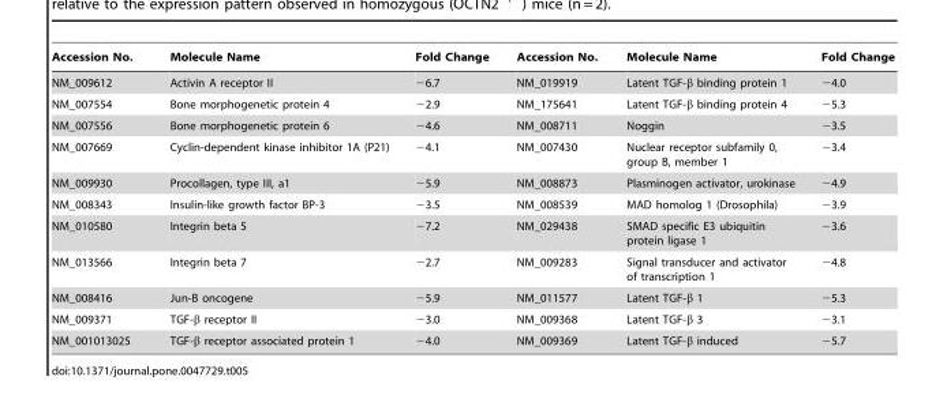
<table><thead><tr><td>Accession No.</td><td>Molecule Name</td><td>Fold Change</td><td>Accession No.</td><td>Molecule Name</td><td>Fold Change</td></tr></thead><tbody><tr><td>NM_009612</td><td>Activin A receptor II</td><td>−6.7</td><td>NM_019919</td><td>Latent TGF-b binding protein 1</td><td>−4.0</td></tr><tr><td>NM_007554</td><td>Bone morphogenetic protein 4</td><td>−2.9</td><td>NM_175641</td><td>Latent TGF-b binding protein 4</td><td>−5.3</td></tr><tr><td>NM_007556</td><td>Bone morphogenetic protein 6</td><td>−4.6</td><td>NM_008711</td><td>Noggin</td><td>−3.5</td></tr><tr><td>NM_007669</td><td>Cyclin-dependent kinase inhibitor 1A (P21)</td><td>−4.1</td><td>NM_007430</td><td>Nuclear receptor subfamily 0, group B, member 1</td><td>−3.4</td></tr><tr><td>NM_009930</td><td>Procollagen, type III, a1</td><td>−5.9</td><td>NM_008873</td><td>Plasminogen activator, urokinase</td><td>−4.9</td></tr><tr><td>NM_008343</td><td>Insulin-like growth factor BP-3</td><td>−3.5</td><td>NM_008539</td><td>MAD homolog 1 (Drosophila)</td><td>−3.9</td></tr><tr><td>NM_010580</td><td>Integrin beta 5</td><td>−7.2</td><td>NM_029438</td><td>SMAD specific E3 ubiquitin protein ligase 1</td><td>−3.6</td></tr><tr><td>NM_013566</td><td>Integrin beta 7</td><td>−2.7</td><td>NM_009283</td><td>Signal transducer and activator of transcription 1</td><td>−4.8</td></tr><tr><td>NM_008416</td><td>Jun-B oncogene</td><td>−5.9</td><td>NM_011577</td><td>Latent TGF-b 1</td><td>−5.3</td></tr><tr><td>NM_009371</td><td>TGF-b receptor II</td><td>−3.0</td><td>NM_009368</td><td>Latent TGF-b 3</td><td>−3.1</td></tr><tr><td>NM_001013025</td><td>TGF-b receptor associated protein 1</td><td>−4.0</td><td>NM_009369</td><td>Latent TGF-b induced</td><td>−5.7</td></tr></tbody></table>